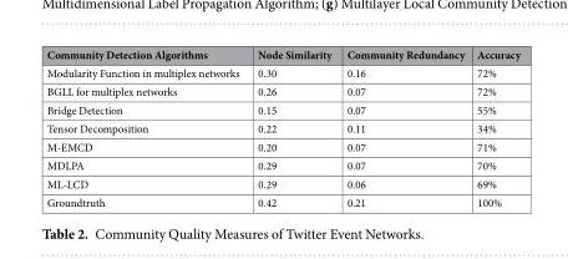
<table><thead><tr><td>Community Detection Algorithms</td><td>Node Similarity</td><td>Community Redundancy</td><td>Accuracy</td></tr></thead><tbody><tr><td>Modularity Function in multiplex networks</td><td>0.30</td><td>0.16</td><td>72%</td></tr><tr><td>BGLL for multiplex networks</td><td>0.26</td><td>0.07</td><td>72%</td></tr><tr><td>Bridge Detection</td><td>0.15</td><td>0.07</td><td>55%</td></tr><tr><td>Tensor Decomposition</td><td>0.22</td><td>0.11</td><td>34%</td></tr><tr><td>M-EMCD</td><td>0.20</td><td>0.07</td><td>71%</td></tr><tr><td>MDLPA</td><td>0.29</td><td>0.07</td><td>70%</td></tr><tr><td>ML-LCD</td><td>0.29</td><td>0.06</td><td>69%</td></tr><tr><td>Groundtruth</td><td>0.42</td><td>0.21</td><td>100%</td></tr></tbody></table>